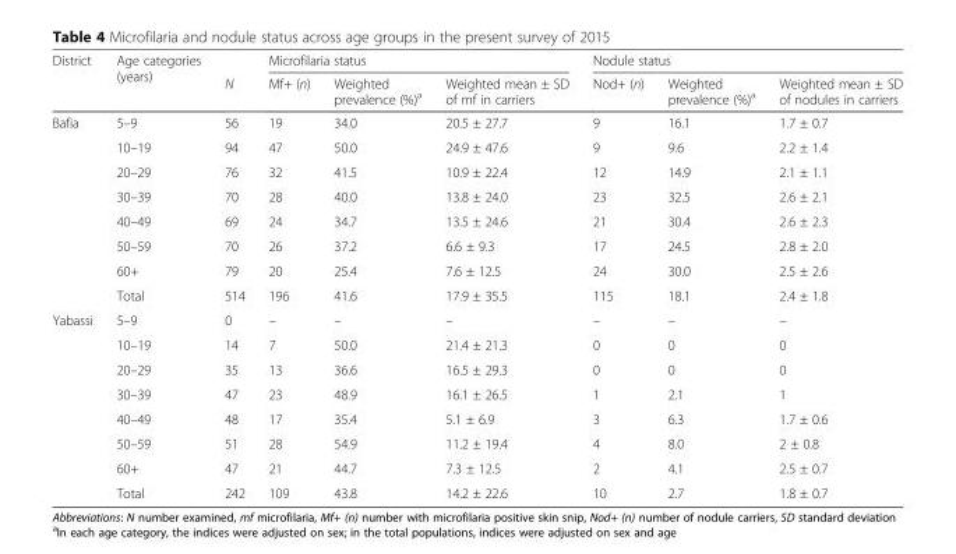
<table><thead><tr><td rowspan="2">District</td><td rowspan="2">Age categories (years)</td><td rowspan="2">N</td><td colspan="3">Microfilaria status</td><td colspan="3">Nodule status</td></tr><tr><td>Mf+ (n)</td><td>Weighted prevalence (%)<sup>a</sup></td><td>Weighted mean ± SD of mf in carriers</td><td>Nod+ (n)</td><td>Weighted prevalence (%)<sup>a</sup></td><td>Weighted mean ± SD of nodules in carriers</td></tr></thead><tbody><tr><td rowspan="8">Bafia</td><td>5–9</td><td>56</td><td>19</td><td>34.0</td><td>20.5 ± 27.7</td><td>9</td><td>16.1</td><td>1.7 ± 0.7</td></tr><tr><td>10–19</td><td>94</td><td>47</td><td>50.0</td><td>24.9 ± 47.6</td><td>9</td><td>9.6</td><td>2.2 ± 1.4</td></tr><tr><td>20–29</td><td>76</td><td>32</td><td>41.5</td><td>10.9 ± 22.4</td><td>12</td><td>14.9</td><td>2.1 ± 1.1</td></tr><tr><td>30–39</td><td>70</td><td>28</td><td>40.0</td><td>13.8 ± 24.0</td><td>23</td><td>32.5</td><td>2.6 ± 2.1</td></tr><tr><td>40–49</td><td>69</td><td>24</td><td>34.7</td><td>13.5 ± 24.6</td><td>21</td><td>30.4</td><td>2.6 ± 2.3</td></tr><tr><td>50–59</td><td>70</td><td>26</td><td>37.2</td><td>6.6 ± 9.3</td><td>17</td><td>24.5</td><td>2.8 ± 2.0</td></tr><tr><td>60+</td><td>79</td><td>20</td><td>25.4</td><td>7.6 ± 12.5</td><td>24</td><td>30.0</td><td>2.5 ± 2.6</td></tr><tr><td>Total</td><td>514</td><td>196</td><td>41.6</td><td>17.9 ± 35.5</td><td>115</td><td>18.1</td><td>2.4 ± 1.8</td></tr><tr><td rowspan="8">Yabassi</td><td>5–9</td><td>0</td><td>–</td><td>–</td><td>–</td><td>–</td><td>–</td><td>–</td></tr><tr><td>10–19</td><td>14</td><td>7</td><td>50.0</td><td>21.4 ± 21.3</td><td>0</td><td>0</td><td>0</td></tr><tr><td>20–29</td><td>35</td><td>13</td><td>36.6</td><td>16.5 ± 29.3</td><td>0</td><td>0</td><td>0</td></tr><tr><td>30–39</td><td>47</td><td>23</td><td>48.9</td><td>16.1 ± 26.5</td><td>1</td><td>2.1</td><td>1</td></tr><tr><td>40–49</td><td>48</td><td>17</td><td>35.4</td><td>5.1 ± 6.9</td><td>3</td><td>6.3</td><td>1.7 ± 0.6</td></tr><tr><td>50–59</td><td>51</td><td>28</td><td>54.9</td><td>11.2 ± 19.4</td><td>4</td><td>8.0</td><td>2 ± 0.8</td></tr><tr><td>60+</td><td>47</td><td>21</td><td>44.7</td><td>7.3 ± 12.5</td><td>2</td><td>4.1</td><td>2.5 ± 0.7</td></tr><tr><td>Total</td><td>242</td><td>109</td><td>43.8</td><td>14.2 ± 22.6</td><td>10</td><td>2.7</td><td>1.8 ± 0.7</td></tr></tbody></table>